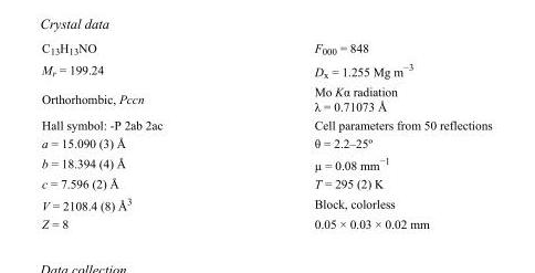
<table><tbody><tr><td>C<sub>13</sub>H<sub>13</sub>NO</td><td>F000 = 848</td></tr><tr><td>M<sub>r</sub> = 199.24</td><td>D<sub>x</sub> = 1.255 Mg m<sup>−3</sup></td></tr><tr><td>Orthorhombic, Pccn</td><td>Mo Kα radiation λ = 0.71073 Å</td></tr><tr><td>Hall symbol: -P 2ab 2ac</td><td>Cell parameters from 50 reflections</td></tr><tr><td>a = 15.090 (3) Å</td><td>θ = 2.2–25º</td></tr><tr><td>b = 18.394 (4) Å</td><td>µ = 0.08 mm<sup>−1</sup></td></tr><tr><td>c = 7.596 (2) Å</td><td>T = 295 (2) K</td></tr><tr><td>V = 2108.4 (8) Å<sup>3</sup></td><td>Block, colorless</td></tr><tr><td>Z = 8</td><td>0.05 × 0.03 × 0.02 mm</td></tr></tbody></table>